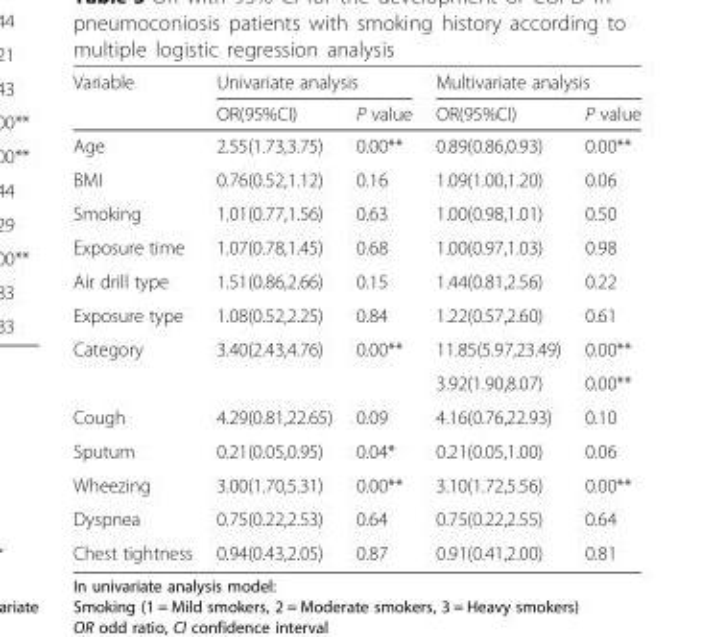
<table><thead><tr><td rowspan="2">Variable</td><td colspan="2">Univariate analysis</td><td colspan="2">Multivariate analysis</td></tr><tr><td>OR(95%CI)</td><td>P value</td><td>OR(95%CI)</td><td>P value</td></tr></thead><tbody><tr><td>Age</td><td>2.55(1.73,3.75)</td><td>0.00**</td><td>0.89(0.86,0.93)</td><td>0.00**</td></tr><tr><td>BMI</td><td>0.76(0.52,1.12)</td><td>0.16</td><td>1.09(1.00,1.20)</td><td>0.06</td></tr><tr><td>Smoking</td><td>1.01(0.77,1.56)</td><td>0.63</td><td>1.00(0.98,1.01)</td><td>0.50</td></tr><tr><td>Exposure time</td><td>1.07(0.78,1.45)</td><td>0.68</td><td>1.00(0.97,1.03)</td><td>0.98</td></tr><tr><td>Air drill type</td><td>1.51(0.86,2.66)</td><td>0.15</td><td>1.44(0.81,2.56)</td><td>0.22</td></tr><tr><td>Exposure type</td><td>1.08(0.52,2.25)</td><td>0.84</td><td>1.22(0.57,2.60)</td><td>0.61</td></tr><tr><td rowspan="2">Category</td><td>3.40(2.43,4.76)</td><td>0.00**</td><td>11.85(5.97,23.49)</td><td>0.00**</td></tr><tr><td></td><td></td><td>3.92(1.90,8.07)</td><td>0.00**</td></tr><tr><td>Cough</td><td>4.29(0.81,22.65)</td><td>0.09</td><td>4.16(0.76,22.93)</td><td>0.10</td></tr><tr><td>Sputum</td><td>0.21(0.05,0.95)</td><td>0.04*</td><td>0.21(0.05,1.00)</td><td>0.06</td></tr><tr><td>Wheezing</td><td>3.00(1.70,5.31)</td><td>0.00**</td><td>3.10(1.72,5.56)</td><td>0.00**</td></tr><tr><td>Dyspnea</td><td>0.75(0.22,2.53)</td><td>0.64</td><td>0.75(0.22,2.55)</td><td>0.64</td></tr><tr><td>Chest tightness</td><td>0.94(0.43,2.05)</td><td>0.87</td><td>0.91(0.41,2.00)</td><td>0.81</td></tr></tbody></table>